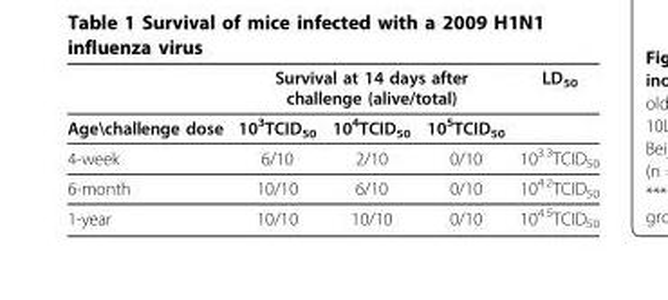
<table><thead><tr><td rowspan="2">Age\challenge dose</td><td colspan="3">Survival at 14 days after challenge (alive/total)</td><td rowspan="2">LD<sub>50</sub></td></tr><tr><td>10<sup>3</sup>TCID<sub>50</sub></td><td>10<sup>4</sup>TCID<sub>50</sub></td><td>10<sup>5</sup>TCID<sub>50</sub></td></tr></thead><tbody><tr><td>4-week</td><td>6/10</td><td>2/10</td><td>0/10</td><td>10<sup>3.3</sup>TCID<sub>50</sub></td></tr><tr><td>6-month</td><td>10/10</td><td>6/10</td><td>0/10</td><td>10<sup>4.2</sup>TCID<sub>50</sub></td></tr><tr><td>1-year</td><td>10/10</td><td>10/10</td><td>0/10</td><td>10<sup>4.5</sup>TCID<sub>50</sub></td></tr></tbody></table>